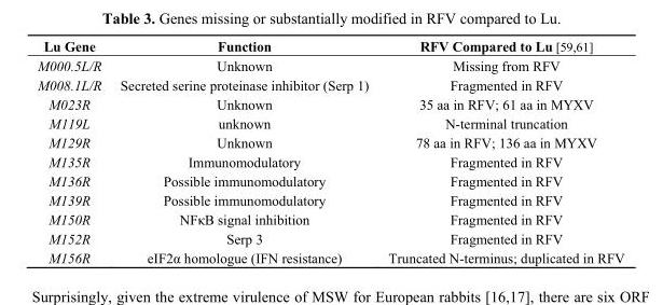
<table><thead><tr><td>Lu Gene</td><td>Function</td><td>RFV Compared to Lu [59,61]</td></tr></thead><tbody><tr><td>M000.5L/R</td><td>Unknown</td><td>Missing from RFV</td></tr><tr><td>M008.1L/R</td><td>Secreted serine proteinase inhibitor (Serp 1)</td><td>Fragmented in RFV</td></tr><tr><td>M023R</td><td>Unknown</td><td>35 aa in RFV; 61 aa in MYXV</td></tr><tr><td>M119L</td><td>unknown</td><td>N-terminal truncation</td></tr><tr><td>M129R</td><td>Unknown</td><td>78 aa in RFV; 136 aa in MYXV</td></tr><tr><td>M135R</td><td>Immunomodulatory</td><td>Fragmented in RFV</td></tr><tr><td>M136R</td><td>Possible immunomodulatory</td><td>Fragmented in RFV</td></tr><tr><td>M139R</td><td>Possible immunomodulatory</td><td>Fragmented in RFV</td></tr><tr><td>M150R</td><td>NFκB signal inhibition</td><td>Fragmented in RFV</td></tr><tr><td>M152R</td><td>Serp 3</td><td>Fragmented in RFV</td></tr><tr><td>M156R</td><td>eIF2α homologue (IFN resistance)</td><td>Truncated N-terminus; duplicated in RFV</td></tr></tbody></table>